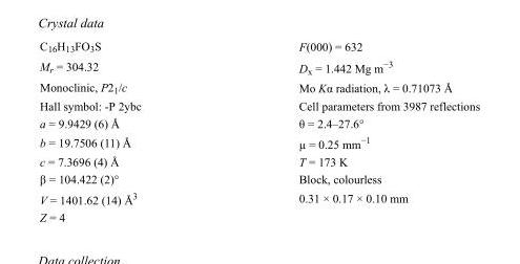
<table><tbody><tr><td>C<sub>16</sub>H<sub>13</sub>FO<sub>3</sub>S</td><td>F(000) = 632</td></tr><tr><td>M<sub>r</sub> = 304.32</td><td>D<sub>x</sub> = 1.442 Mg m<sup>−3</sup></td></tr><tr><td>Monoclinic, P2<sub>1</sub>/c</td><td>Mo Kα radiation, λ = 0.71073 Å</td></tr><tr><td>Hall symbol: -P 2ybc</td><td>Cell parameters from 3987 reflections</td></tr><tr><td>a = 9.9429 (6) Å</td><td>θ = 2.4–27.6°</td></tr><tr><td>b = 19.7506 (11) Å</td><td>µ = 0.25 mm<sup>−1</sup></td></tr><tr><td>c = 7.3696 (4) Å</td><td>T = 173 K</td></tr><tr><td>β = 104.422 (2)°</td><td>Block, colourless</td></tr><tr><td>V = 1401.62 (14) Å<sup>3</sup></td><td>0.31 × 0.17 × 0.10 mm</td></tr><tr><td>Z = 4</td><td></td></tr></tbody></table>